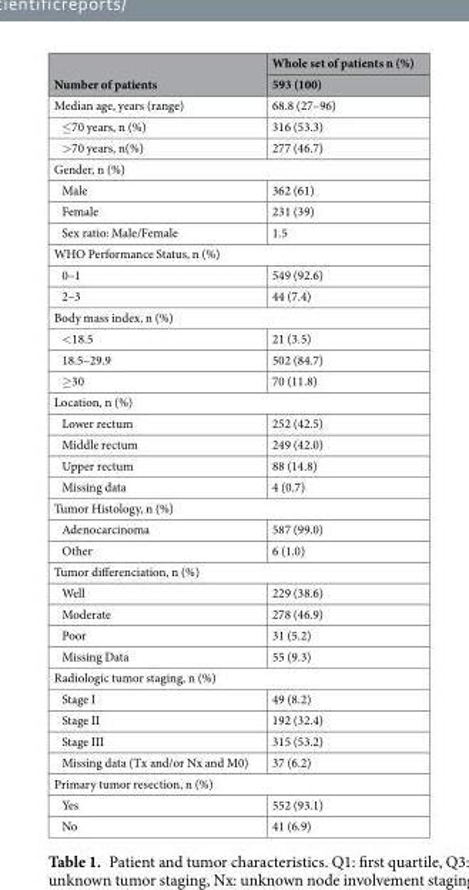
<table><thead><tr><td rowspan="2">Number of patients</td><td rowspan="2">Whole set of patients n (%) 593 (100)</td></tr><tr></tr></thead><tbody><tr><td>Median age, years (range)</td><td>68.8 (27–96)</td></tr><tr><td>≤70 years, n (%)</td><td>316 (53.3)</td></tr><tr><td>&gt;70 years, n(%)</td><td>277 (46.7)</td></tr><tr><td colspan="2">Gender, n (%)</td></tr><tr><td>Male</td><td>362 (61)</td></tr><tr><td>Female</td><td>231 (39)</td></tr><tr><td>Sex ratio: Male/Female</td><td>1.5</td></tr><tr><td colspan="2">WHO Performance Status, n (%)</td></tr><tr><td>0–1</td><td>549 (92.6)</td></tr><tr><td>2–3</td><td>44 (7.4)</td></tr><tr><td colspan="2">Body mass index, n (%)</td></tr><tr><td>&lt;18.5</td><td>21 (3.5)</td></tr><tr><td>18.5–29.9</td><td>502 (84.7)</td></tr><tr><td>≥30</td><td>70 (11.8)</td></tr><tr><td colspan="2">Location, n (%)</td></tr><tr><td>Lower rectum</td><td>252 (42.5)</td></tr><tr><td>Middle rectum</td><td>249 (42.0)</td></tr><tr><td>Upper rectum</td><td>88 (14.8)</td></tr><tr><td>Missing data</td><td>4 (0.7)</td></tr><tr><td colspan="2">Tumor Histology, n (%)</td></tr><tr><td>Adenocarcinoma</td><td>587 (99.0)</td></tr><tr><td>Other</td><td>6 (1.0)</td></tr><tr><td colspan="2">Tumor differenciation, n (%)</td></tr><tr><td>Well</td><td>229 (38.6)</td></tr><tr><td>Moderate</td><td>278 (46.9)</td></tr><tr><td>Poor</td><td>31 (5.2)</td></tr><tr><td>Missing Data</td><td>55 (9.3)</td></tr><tr><td colspan="2">Radiologic tumor staging, n (%)</td></tr><tr><td>Stage I</td><td>49 (8.2)</td></tr><tr><td>Stage II</td><td>192 (32.4)</td></tr><tr><td>Stage III</td><td>315 (53.2)</td></tr><tr><td>Missing data (Tx and/or Nx and M0)</td><td>37 (6.2)</td></tr><tr><td colspan="2">Primary tumor resection, n (%)</td></tr><tr><td>Yes</td><td>552 (93.1)</td></tr><tr><td>No</td><td>41 (6.9)</td></tr></tbody></table>